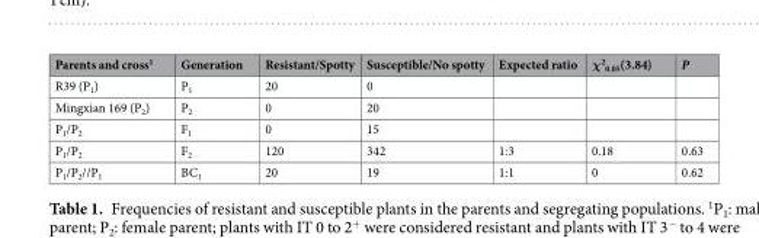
<table><thead><tr><td>Parents and cross<sup>1</sup></td><td>Generation</td><td>Resistant/Spotty</td><td>Susceptible/No spotty</td><td>Expected ratio</td><td>χ<sup>2</sup> <sub>0.05</sub>(3.84)</td><td>P</td></tr></thead><tbody><tr><td>R39 (P<sub>1</sub>)</td><td>P<sub>1</sub></td><td>20</td><td>0</td><td></td><td></td><td></td></tr><tr><td>Mingxian 169 (P<sub>2</sub>)</td><td>P<sub>2</sub></td><td>0</td><td>20</td><td></td><td></td><td></td></tr><tr><td>P<sub>1</sub>/P<sub>2</sub></td><td>F<sub>1</sub></td><td>0</td><td>15</td><td></td><td></td><td></td></tr><tr><td>P<sub>1</sub>/P<sub>2</sub></td><td>F<sub>2</sub></td><td>120</td><td>342</td><td>1:3</td><td>0.18</td><td>0.63</td></tr><tr><td>P<sub>1</sub>/P<sub>2</sub>//P<sub>1</sub></td><td>BC<sub>1</sub></td><td>20</td><td>19</td><td>1:1</td><td>0</td><td>0.62</td></tr></tbody></table>